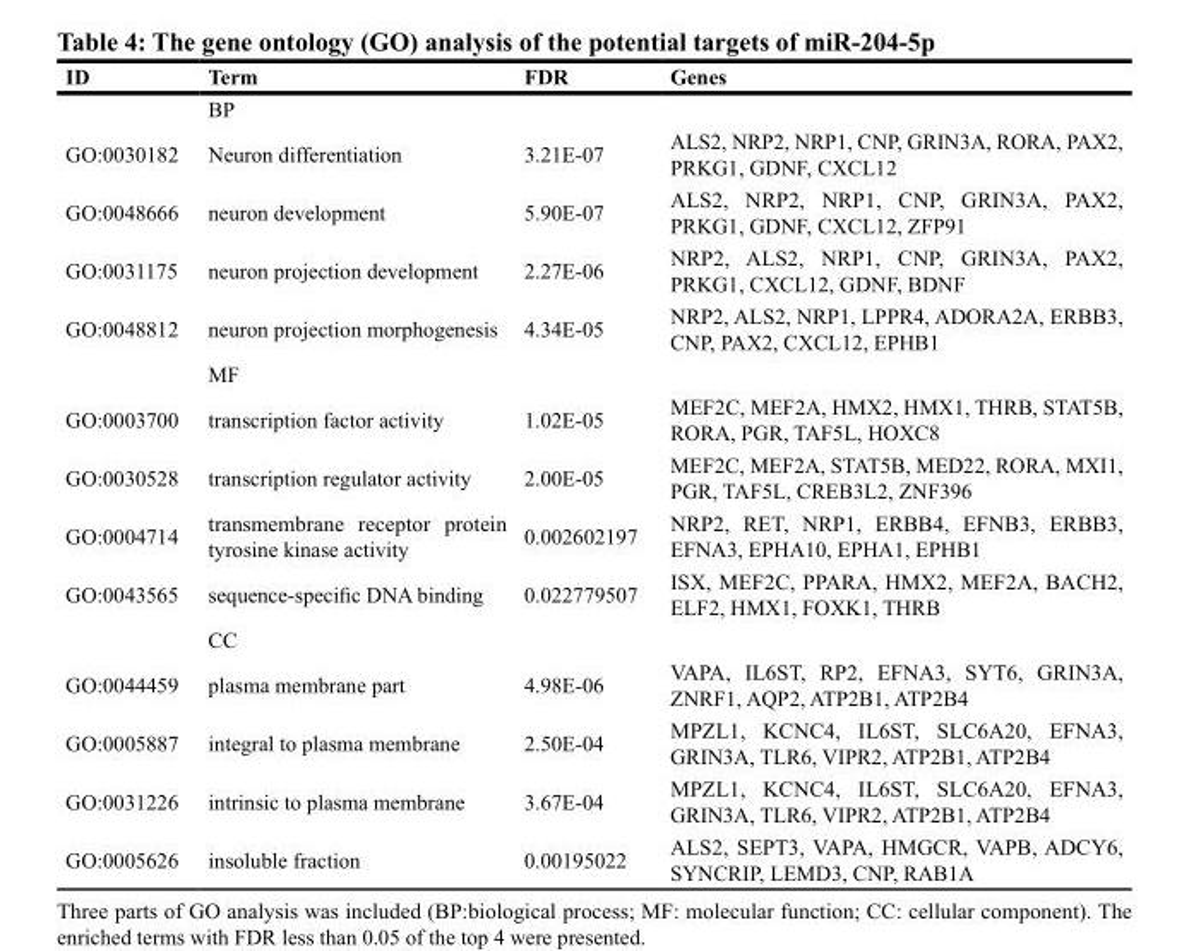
<table><thead><tr><td>ID</td><td>Term</td><td>FDR</td><td>Genes</td></tr></thead><tbody><tr><td></td><td>BP</td><td></td><td></td></tr><tr><td>GO:0030182</td><td>Neuron differentiation</td><td>3.21E-07</td><td>ALS2, NRP2, NRP1, CNP, GRIN3A, RORA, PAX2, PRKG1, GDNF, CXCL12</td></tr><tr><td>GO:0048666</td><td>neuron development</td><td>5.90E-07</td><td>ALS2, NRP2, NRP1, CNP, GRIN3A, PAX2, PRKG1, GDNF, CXCL12, ZFP91</td></tr><tr><td>GO:0031175</td><td>neuron projection development</td><td>2.27E-06</td><td>NRP2, ALS2, NRP1, CNP, GRIN3A, PAX2, PRKG1, CXCL12, GDNF, BDNF</td></tr><tr><td rowspan="2">GO:0048812</td><td>neuron projection morphogenesis</td><td>4.34E-05</td><td>NRP2, ALS2, NRP1, LPPR4, ADORA2A, ERBB3, CNP, PAX2, CXCL12, EPHB1</td></tr><tr><td>MF</td><td></td><td></td></tr><tr><td>GO:0003700</td><td>transcription factor activity</td><td>1.02E-05</td><td>MEF2C, MEF2A, HMX2, HMX1, THRB, STAT5B, RORA, PGR, TAF5L, HOXC8</td></tr><tr><td>GO:0030528</td><td>transcription regulator activity</td><td>2.00E-05</td><td>MEF2C, MEF2A, STAT5B, MED22, RORA, MXI1, PGR, TAF5L, CREB3L2, ZNF396</td></tr><tr><td>GO:0004714</td><td>transmembrane receptor protein tyrosine kinase activity</td><td>0.002602197</td><td>NRP2, RET, NRP1, ERBB4, EFNB3, ERBB3, EFNA3, EPHA10, EPHA1, EPHB1</td></tr><tr><td rowspan="2">GO:0043565</td><td>sequence-specific DNA binding</td><td>0.022779507</td><td>ISX, MEF2C, PPARA, HMX2, MEF2A, BACH2, ELF2, HMX1, FOXK1, THRB</td></tr><tr><td>CC</td><td></td><td></td></tr><tr><td>GO:0044459</td><td>plasma membrane part</td><td>4.98E-06</td><td>VAPA, IL6ST, RP2, EFNA3, SYT6, GRIN3A, ZNRF1, AQP2, ATP2B1, ATP2B4</td></tr><tr><td>GO:0005887</td><td>integral to plasma membrane</td><td>2.50E-04</td><td>MPZL1, KCNC4, IL6ST, SLC6A20, EFNA3, GRIN3A, TLR6, VIPR2, ATP2B1, ATP2B4</td></tr><tr><td>GO:0031226</td><td>intrinsic to plasma membrane</td><td>3.67E-04</td><td>MPZL1, KCNC4, IL6ST, SLC6A20, EFNA3, GRIN3A, TLR6, VIPR2, ATP2B1, ATP2B4</td></tr><tr><td>GO:0005626</td><td>insoluble fraction</td><td>0.00195022</td><td>ALS2, SEPT3, VAPA, HMGCR, VAPB, ADCY6, SYNCRIP, LEMD3, CNP, RAB1A</td></tr></tbody></table>